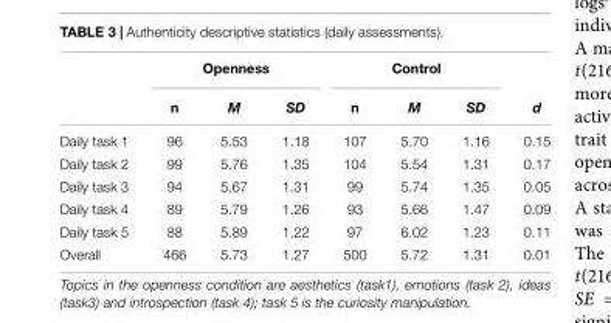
<table><thead><tr><td rowspan="2"></td><td colspan="3">Openness</td><td colspan="3">Control</td><td rowspan="2">d</td></tr><tr><td>n</td><td>M</td><td>SD</td><td>n</td><td>M</td><td>SD</td></tr></thead><tbody><tr><td>Daily task 1</td><td>96</td><td>5.53</td><td>1.18</td><td>107</td><td>5.70</td><td>1.16</td><td>0.15</td></tr><tr><td>Daily task 2</td><td>99</td><td>5.76</td><td>1.35</td><td>104</td><td>5.54</td><td>1.31</td><td>0.17</td></tr><tr><td>Daily task 3</td><td>94</td><td>5.67</td><td>1.31</td><td>99</td><td>5.74</td><td>1.35</td><td>0.05</td></tr><tr><td>Daily task 4</td><td>89</td><td>5.79</td><td>1.26</td><td>93</td><td>5.66</td><td>1.47</td><td>0.09</td></tr><tr><td>Daily task 5</td><td>88</td><td>5.89</td><td>1.22</td><td>97</td><td>6.02</td><td>1.23</td><td>0.11</td></tr><tr><td>Overall</td><td>466</td><td>5.73</td><td>1.27</td><td>500</td><td>5.72</td><td>1.31</td><td>0.01</td></tr></tbody></table>